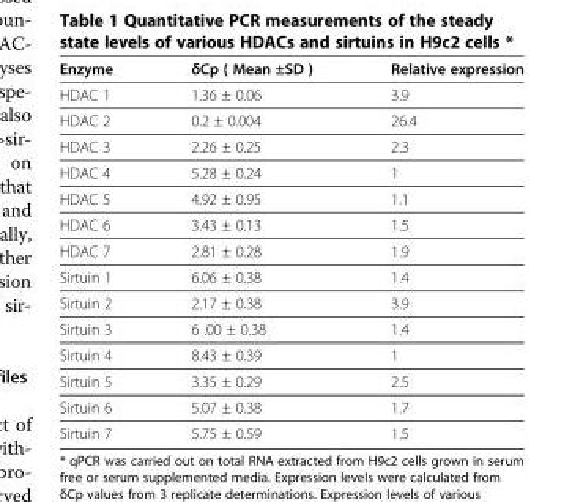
<table><thead><tr><td>Enzyme</td><td>δCp ( Mean ±SD )</td><td>Relative expression</td></tr></thead><tbody><tr><td>HDAC 1</td><td>1.36 ± 0.06</td><td>3.9</td></tr><tr><td>HDAC 2</td><td>0.2 ± 0.004</td><td>26.4</td></tr><tr><td>HDAC 3</td><td>2.26 ± 0.25</td><td>2.3</td></tr><tr><td>HDAC 4</td><td>5.28 ± 0.24</td><td>1</td></tr><tr><td>HDAC 5</td><td>4.92 ± 0.95</td><td>1.1</td></tr><tr><td>HDAC 6</td><td>3.43 ± 0.13</td><td>1.5</td></tr><tr><td>HDAC 7</td><td>2.81 ± 0.28</td><td>1.9</td></tr><tr><td>Sirtuin 1</td><td>6.06 ± 0.38</td><td>1.4</td></tr><tr><td>Sirtuin 2</td><td>2.17 ± 0.38</td><td>3.9</td></tr><tr><td>Sirtuin 3</td><td>6 .00 ± 0.38</td><td>1.4</td></tr><tr><td>Sirtuin 4</td><td>8.43 ± 0.39</td><td>1</td></tr><tr><td>Sirtuin 5</td><td>3.35 ± 0.29</td><td>2.5</td></tr><tr><td>Sirtuin 6</td><td>5.07 ± 0.38</td><td>1.7</td></tr><tr><td>Sirtuin 7</td><td>5.75 ± 0.59</td><td>1.5</td></tr></tbody></table>